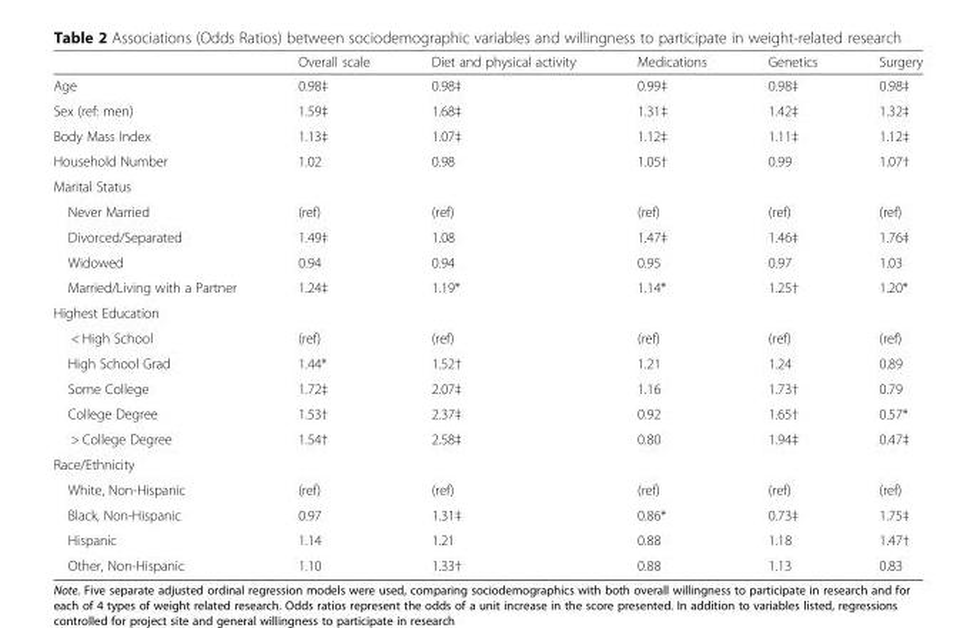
<table><thead><tr><td></td><td>Overall scale</td><td>Diet and physical activity</td><td>Medications</td><td>Genetics</td><td>Surgery</td></tr></thead><tbody><tr><td>Age</td><td>0.98‡</td><td>0.98‡</td><td>0.99‡</td><td>0.98‡</td><td>0.98‡</td></tr><tr><td>Sex (ref: men)</td><td>1.59‡</td><td>1.68‡</td><td>1.31‡</td><td>1.42‡</td><td>1.32‡</td></tr><tr><td>Body Mass Index</td><td>1.13‡</td><td>1.07‡</td><td>1.12‡</td><td>1.11‡</td><td>1.12‡</td></tr><tr><td>Household Number</td><td>1.02</td><td>0.98</td><td>1.05†</td><td>0.99</td><td>1.07†</td></tr><tr><td colspan="6">Marital Status</td></tr><tr><td>Never Married</td><td>(ref)</td><td>(ref)</td><td>(ref)</td><td>(ref)</td><td>(ref)</td></tr><tr><td>Divorced/Separated</td><td>1.49‡</td><td>1.08</td><td>1.47‡</td><td>1.46‡</td><td>1.76‡</td></tr><tr><td>Widowed</td><td>0.94</td><td>0.94</td><td>0.95</td><td>0.97</td><td>1.03</td></tr><tr><td>Married/Living with a Partner</td><td>1.24‡</td><td>1.19*</td><td>1.14*</td><td>1.25†</td><td>1.20*</td></tr><tr><td colspan="6">Highest Education</td></tr><tr><td>&lt; High School</td><td>(ref)</td><td>(ref)</td><td>(ref)</td><td>(ref)</td><td>(ref)</td></tr><tr><td>High School Grad</td><td>1.44*</td><td>1.52†</td><td>1.21</td><td>1.24</td><td>0.89</td></tr><tr><td>Some College</td><td>1.72‡</td><td>2.07‡</td><td>1.16</td><td>1.73†</td><td>0.79</td></tr><tr><td>College Degree</td><td>1.53†</td><td>2.37‡</td><td>0.92</td><td>1.65†</td><td>0.57*</td></tr><tr><td>&gt; College Degree</td><td>1.54†</td><td>2.58‡</td><td>0.80</td><td>1.94‡</td><td>0.47‡</td></tr><tr><td colspan="6">Race/Ethnicity</td></tr><tr><td>White, Non-Hispanic</td><td>(ref)</td><td>(ref)</td><td>(ref)</td><td>(ref)</td><td>(ref)</td></tr><tr><td>Black, Non-Hispanic</td><td>0.97</td><td>1.31‡</td><td>0.86*</td><td>0.73‡</td><td>1.75‡</td></tr><tr><td>Hispanic</td><td>1.14</td><td>1.21</td><td>0.88</td><td>1.18</td><td>1.47†</td></tr><tr><td>Other, Non-Hispanic</td><td>1.10</td><td>1.33†</td><td>0.88</td><td>1.13</td><td>0.83</td></tr></tbody></table>